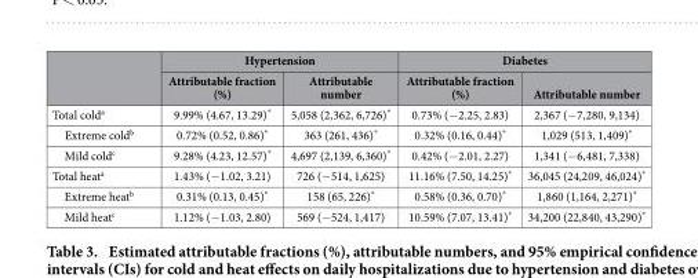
<table><thead><tr><td rowspan="2"></td><td colspan="2">Hypertension</td><td colspan="2">Diabetes</td></tr><tr><td>Attributable fraction (%)</td><td>Attributable number</td><td>Attributable fraction (%)</td><td>Attributable number</td></tr></thead><tbody><tr><td>Total cold<sup>a</sup></td><td>9.99% (4.67, 13.29)*</td><td>5,058 (2,362, 6,726)*</td><td>0.73% (− 2.25, 2.83)</td><td>2,367 (− 7,280, 9,134)</td></tr><tr><td>Extreme cold<sup>b</sup></td><td>0.72% (0.52, 0.86)*</td><td>363 (261, 436)*</td><td>0.32% (0.16, 0.44)*</td><td>1,029 (513, 1,409)*</td></tr><tr><td>Mild cold<sup>c</sup></td><td>9.28% (4.23, 12.57)*</td><td>4,697 (2,139, 6,360)*</td><td>0.42% (− 2.01, 2.27)</td><td>1,341 (− 6,481, 7,338)</td></tr><tr><td>Total heat<sup>a</sup></td><td>1.43% (− 1.02, 3.21)</td><td>726 (− 514, 1,625)</td><td>11.16% (7.50, 14.25)*</td><td>36,045 (24,209, 46,024)*</td></tr><tr><td>Extreme heat<sup>b</sup></td><td>0.31% (0.13, 0.45)*</td><td>158 (65, 226)*</td><td>0.58% (0.36, 0.70)*</td><td>1,860 (1,164, 2,271)*</td></tr><tr><td>Mild heat<sup>c</sup></td><td>1.12% (− 1.03, 2.80)</td><td>569 (− 524, 1,417)</td><td>10.59% (7.07, 13.41)*</td><td>34,200 (22,840, 43,290)*</td></tr></tbody></table>